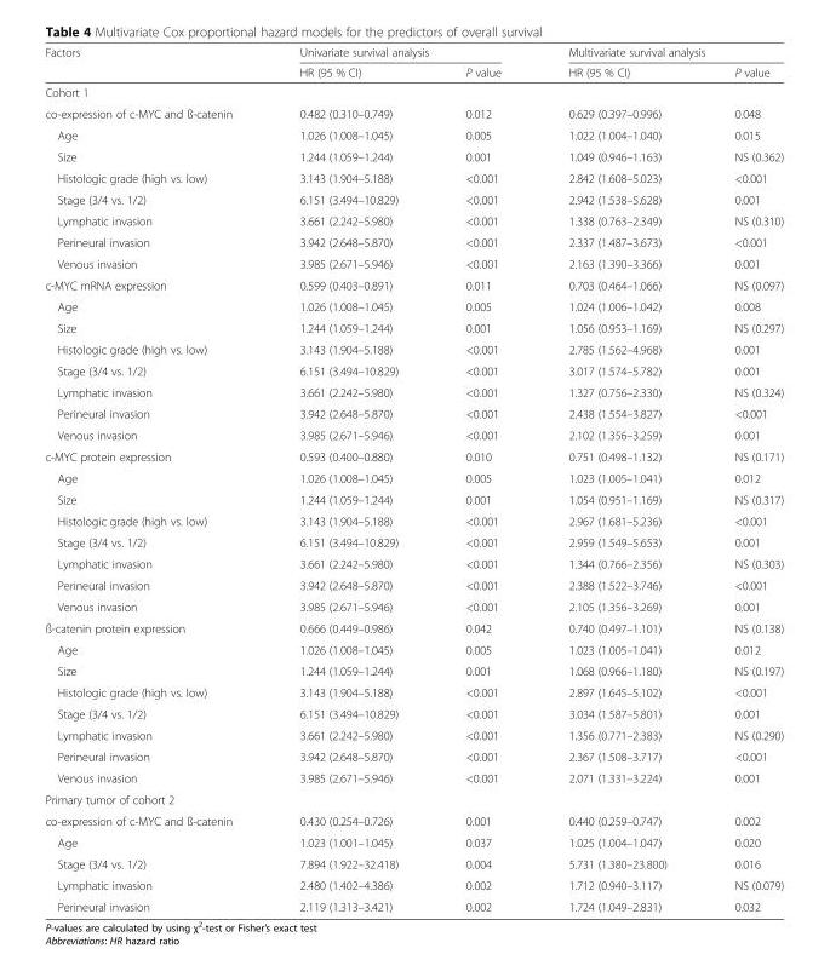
<table><thead><tr><td rowspan="2">Factors</td><td colspan="2">Univariate survival analysis</td><td colspan="2">Multivariate survival analysis</td></tr><tr><td>HR (95 % CI)</td><td>P value</td><td>HR (95 % CI)</td><td>P value</td></tr></thead><tbody><tr><td colspan="5">Cohort 1</td></tr><tr><td>co-expression of c-MYC and ß-catenin</td><td>0.482 (0.310–0.749)</td><td>0.012</td><td>0.629 (0.397–0.996)</td><td>0.048</td></tr><tr><td>Age</td><td>1.026 (1.008–1.045)</td><td>0.005</td><td>1.022 (1.004–1.040)</td><td>0.015</td></tr><tr><td>Size</td><td>1.244 (1.059–1.244)</td><td>0.001</td><td>1.049 (0.946–1.163)</td><td>NS (0.362)</td></tr><tr><td>Histologic grade (high vs. low)</td><td>3.143 (1.904–5.188)</td><td>&lt;0.001</td><td>2.842 (1.608–5.023)</td><td>&lt;0.001</td></tr><tr><td>Stage (3/4 vs. 1/2)</td><td>6.151 (3.494–10.829)</td><td>&lt;0.001</td><td>2.942 (1.538–5.628)</td><td>0.001</td></tr><tr><td>Lymphatic invasion</td><td>3.661 (2.242–5.980)</td><td>&lt;0.001</td><td>1.338 (0.763–2.349)</td><td>NS (0.310)</td></tr><tr><td>Perineural invasion</td><td>3.942 (2.648–5.870)</td><td>&lt;0.001</td><td>2.337 (1.487–3.673)</td><td>&lt;0.001</td></tr><tr><td>Venous invasion</td><td>3.985 (2.671–5.946)</td><td>&lt;0.001</td><td>2.163 (1.390–3.366)</td><td>0.001</td></tr><tr><td>c-MYC mRNA expression</td><td>0.599 (0.403–0.891)</td><td>0.011</td><td>0.703 (0.464–1.066)</td><td>NS (0.097)</td></tr><tr><td>Age</td><td>1.026 (1.008–1.045)</td><td>0.005</td><td>1.024 (1.006–1.042)</td><td>0.008</td></tr><tr><td>Size</td><td>1.244 (1.059–1.244)</td><td>0.001</td><td>1.056 (0.953–1.169)</td><td>NS (0.297)</td></tr><tr><td>Histologic grade (high vs. low)</td><td>3.143 (1.904–5.188)</td><td>&lt;0.001</td><td>2.785 (1.562–4.968)</td><td>0.001</td></tr><tr><td>Stage (3/4 vs. 1/2)</td><td>6.151 (3.494–10.829)</td><td>&lt;0.001</td><td>3.017 (1.574–5.782)</td><td>0.001</td></tr><tr><td>Lymphatic invasion</td><td>3.661 (2.242–5.980)</td><td>&lt;0.001</td><td>1.327 (0.756–2.330)</td><td>NS (0.324)</td></tr><tr><td>Perineural invasion</td><td>3.942 (2.648–5.870)</td><td>&lt;0.001</td><td>2.438 (1.554–3.827)</td><td>&lt;0.001</td></tr><tr><td>Venous invasion</td><td>3.985 (2.671–5.946)</td><td>&lt;0.001</td><td>2.102 (1.356–3.259)</td><td>0.001</td></tr><tr><td>c-MYC protein expression</td><td>0.593 (0.400–0.880)</td><td>0.010</td><td>0.751 (0.498–1.132)</td><td>NS (0.171)</td></tr><tr><td>Age</td><td>1.026 (1.008–1.045)</td><td>0.005</td><td>1.023 (1.005–1.041)</td><td>0.012</td></tr><tr><td>Size</td><td>1.244 (1.059–1.244)</td><td>0.001</td><td>1.054 (0.951–1.169)</td><td>NS (0.317)</td></tr><tr><td>Histologic grade (high vs. low)</td><td>3.143 (1.904–5.188)</td><td>&lt;0.001</td><td>2.967 (1.681–5.236)</td><td>&lt;0.001</td></tr><tr><td>Stage (3/4 vs. 1/2)</td><td>6.151 (3.494–10.829)</td><td>&lt;0.001</td><td>2.959 (1.549–5.653)</td><td>0.001</td></tr><tr><td>Lymphatic invasion</td><td>3.661 (2.242–5.980)</td><td>&lt;0.001</td><td>1.344 (0.766–2.356)</td><td>NS (0.303)</td></tr><tr><td>Perineural invasion</td><td>3.942 (2.648–5.870)</td><td>&lt;0.001</td><td>2.388 (1.522–3.746)</td><td>&lt;0.001</td></tr><tr><td>Venous invasion</td><td>3.985 (2.671–5.946)</td><td>&lt;0.001</td><td>2.105 (1.356–3.269)</td><td>0.001</td></tr><tr><td>ß-catenin protein expression</td><td>0.666 (0.449–0.986)</td><td>0.042</td><td>0.740 (0.497–1.101)</td><td>NS (0.138)</td></tr><tr><td>Age</td><td>1.026 (1.008–1.045)</td><td>0.005</td><td>1.023 (1.005–1.041)</td><td>0.012</td></tr><tr><td>Size</td><td>1.244 (1.059–1.244)</td><td>0.001</td><td>1.068 (0.966–1.180)</td><td>NS (0.197)</td></tr><tr><td>Histologic grade (high vs. low)</td><td>3.143 (1.904–5.188)</td><td>&lt;0.001</td><td>2.897 (1.645–5.102)</td><td>&lt;0.001</td></tr><tr><td>Stage (3/4 vs. 1/2)</td><td>6.151 (3.494–10.829)</td><td>&lt;0.001</td><td>3.034 (1.587–5.801)</td><td>0.001</td></tr><tr><td>Lymphatic invasion</td><td>3.661 (2.242–5.980)</td><td>&lt;0.001</td><td>1.356 (0.771–2.383)</td><td>NS (0.290)</td></tr><tr><td>Perineural invasion</td><td>3.942 (2.648–5.870)</td><td>&lt;0.001</td><td>2.367 (1.508–3.717)</td><td>&lt;0.001</td></tr><tr><td>Venous invasion</td><td>3.985 (2.671–5.946)</td><td>&lt;0.001</td><td>2.071 (1.331–3.224)</td><td>0.001</td></tr><tr><td colspan="5">Primary tumor of cohort 2</td></tr><tr><td>co-expression of c-MYC and ß-catenin</td><td>0.430 (0.254–0.726)</td><td>0.001</td><td>0.440 (0.259–0.747)</td><td>0.002</td></tr><tr><td>Age</td><td>1.023 (1.001–1.045)</td><td>0.037</td><td>1.025 (1.004–1.047)</td><td>0.020</td></tr><tr><td>Stage (3/4 vs. 1/2)</td><td>7.894 (1.922–32.418)</td><td>0.004</td><td>5.731 (1.380–23.800)</td><td>0.016</td></tr><tr><td>Lymphatic invasion</td><td>2.480 (1.402–4.386)</td><td>0.002</td><td>1.712 (0.940–3.117)</td><td>NS (0.079)</td></tr><tr><td>Perineural invasion</td><td>2.119 (1.313–3.421)</td><td>0.002</td><td>1.724 (1.049–2.831)</td><td>0.032</td></tr></tbody></table>